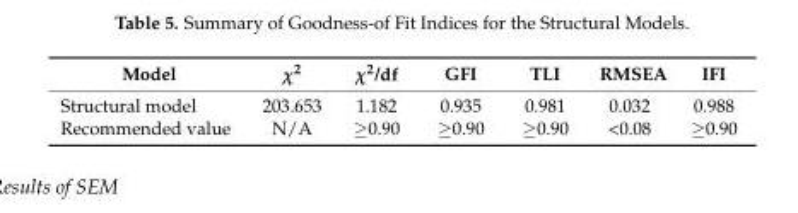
<table><thead><tr><td>Model</td><td>χ<sup>2</sup></td><td>χ<sup>2</sup>/df</td><td>GFI</td><td>TLI</td><td>RMSEA</td><td>IFI</td></tr></thead><tbody><tr><td>Structural model</td><td>203.653</td><td>1.182</td><td>0.935</td><td>0.981</td><td>0.032</td><td>0.988</td></tr><tr><td>Recommended value</td><td>N/A</td><td>≥0.90</td><td>≥0.90</td><td>≥0.90</td><td>&lt;0.08</td><td>≥0.90</td></tr></tbody></table>